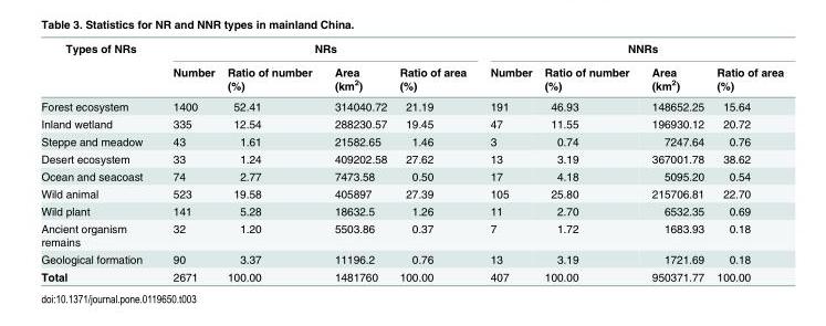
<table><thead><tr><td rowspan="2">Types of NRs</td><td colspan="4">NRs</td><td colspan="4">NNRs</td></tr><tr><td>Number</td><td>Ratio of number (%)</td><td>Area (km<sup>2</sup>)</td><td>Ratio of area (%)</td><td>Number</td><td>Ratio of number (%)</td><td>Area (km<sup>2</sup>)</td><td>Ratio of area (%)</td></tr></thead><tbody><tr><td>Forest ecosystem</td><td>1400</td><td>52.41</td><td>314040.72</td><td>21.19</td><td>191</td><td>46.93</td><td>148652.25</td><td>15.64</td></tr><tr><td>Inland wetland</td><td>335</td><td>12.54</td><td>288230.57</td><td>19.45</td><td>47</td><td>11.55</td><td>196930.12</td><td>20.72</td></tr><tr><td>Steppe and meadow</td><td>43</td><td>1.61</td><td>21582.65</td><td>1.46</td><td>3</td><td>0.74</td><td>7247.64</td><td>0.76</td></tr><tr><td>Desert ecosystem</td><td>33</td><td>1.24</td><td>409202.58</td><td>27.62</td><td>13</td><td>3.19</td><td>367001.78</td><td>38.62</td></tr><tr><td>Ocean and seacoast</td><td>74</td><td>2.77</td><td>7473.58</td><td>0.50</td><td>17</td><td>4.18</td><td>5095.20</td><td>0.54</td></tr><tr><td>Wild animal</td><td>523</td><td>19.58</td><td>405897</td><td>27.39</td><td>105</td><td>25.80</td><td>215706.81</td><td>22.70</td></tr><tr><td>Wild plant</td><td>141</td><td>5.28</td><td>18632.5</td><td>1.26</td><td>11</td><td>2.70</td><td>6532.35</td><td>0.69</td></tr><tr><td>Ancient organism remains</td><td>32</td><td>1.20</td><td>5503.86</td><td>0.37</td><td>7</td><td>1.72</td><td>1683.93</td><td>0.18</td></tr><tr><td>Geological formation</td><td>90</td><td>3.37</td><td>11196.2</td><td>0.76</td><td>13</td><td>3.19</td><td>1721.69</td><td>0.18</td></tr><tr><td>Total</td><td>2671</td><td>100.00</td><td>1481760</td><td>100.00</td><td>407</td><td>100.00</td><td>950371.77</td><td>100.00</td></tr></tbody></table>